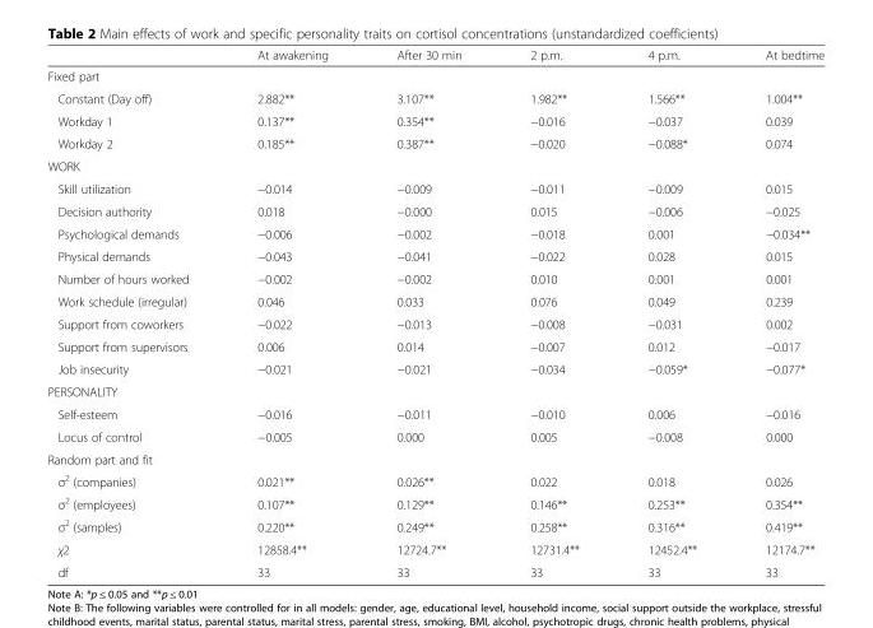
<table><thead><tr><td></td><td>At awakening</td><td>After 30 min</td><td>2 p.m.</td><td>4 p.m.</td><td>At bedtime</td></tr></thead><tbody><tr><td colspan="6">Fixed part</td></tr><tr><td>Constant (Day off)</td><td>2.882**</td><td>3.107**</td><td>1.982**</td><td>1.566**</td><td>1.004**</td></tr><tr><td>Workday 1</td><td>0.137**</td><td>0.354**</td><td>−0.016</td><td>−0.037</td><td>0.039</td></tr><tr><td>Workday 2</td><td>0.185**</td><td>0.387**</td><td>−0.020</td><td>−0.088*</td><td>0.074</td></tr><tr><td colspan="6">WORK</td></tr><tr><td>Skill utilization</td><td>−0.014</td><td>−0.009</td><td>−0.011</td><td>−0.009</td><td>0.015</td></tr><tr><td>Decision authority</td><td>0.018</td><td>−0.000</td><td>0.015</td><td>−0.006</td><td>−0.025</td></tr><tr><td>Psychological demands</td><td>−0.006</td><td>−0.002</td><td>−0.018</td><td>0.001</td><td>−0.034**</td></tr><tr><td>Physical demands</td><td>−0.043</td><td>−0.041</td><td>−0.022</td><td>0.028</td><td>0.015</td></tr><tr><td>Number of hours worked</td><td>−0.002</td><td>−0.002</td><td>0.010</td><td>0.001</td><td>0.001</td></tr><tr><td>Work schedule (irregular)</td><td>0.046</td><td>0.033</td><td>0.076</td><td>0.049</td><td>0.239</td></tr><tr><td>Support from coworkers</td><td>−0.022</td><td>−0.013</td><td>−0.008</td><td>−0.031</td><td>0.002</td></tr><tr><td>Support from supervisors</td><td>0.006</td><td>0.014</td><td>−0.007</td><td>0.012</td><td>−0.017</td></tr><tr><td>Job insecurity</td><td>−0.021</td><td>−0.021</td><td>−0.034</td><td>−0.059*</td><td>−0.077*</td></tr><tr><td colspan="6">PERSONALITY</td></tr><tr><td>Self-esteem</td><td>−0.016</td><td>−0.011</td><td>−0.010</td><td>0.006</td><td>−0.016</td></tr><tr><td>Locus of control</td><td>−0.005</td><td>0.000</td><td>0.005</td><td>−0.008</td><td>0.000</td></tr><tr><td colspan="6">Random part and fit</td></tr><tr><td>σ<sup>2</sup> (companies)</td><td>0.021**</td><td>0.026**</td><td>0.022</td><td>0.018</td><td>0.026</td></tr><tr><td>σ<sup>2</sup> (employees)</td><td>0.107**</td><td>0.129**</td><td>0.146**</td><td>0.253**</td><td>0.354**</td></tr><tr><td>σ<sup>2</sup> (samples)</td><td>0.220**</td><td>0.249**</td><td>0.258**</td><td>0.316**</td><td>0.419**</td></tr><tr><td>χ2</td><td>12858.4**</td><td>12724.7**</td><td>12731.4**</td><td>12452.4**</td><td>12174.7**</td></tr><tr><td>df</td><td>33</td><td>33</td><td>33</td><td>33</td><td>33</td></tr></tbody></table>